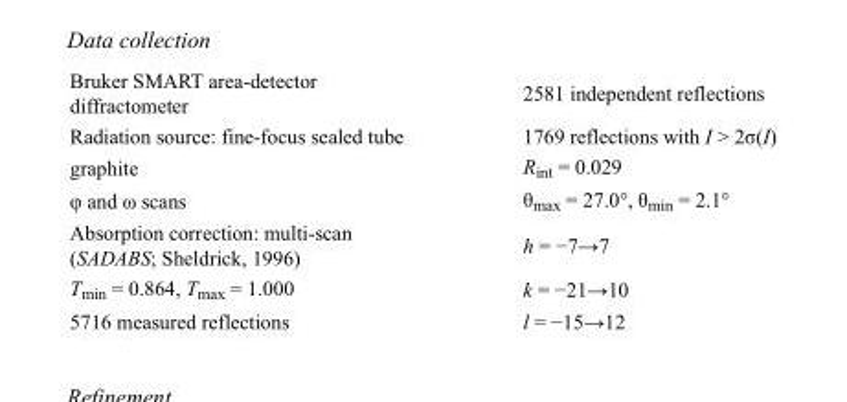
<table><tbody><tr><td>Bruker SMART area-detector diffractometer</td><td>2581 independent reflections</td></tr><tr><td>Radiation source: fine-focus sealed tube</td><td>1769 reflections with I &gt; 2σ(I)</td></tr><tr><td>graphite</td><td>R<sub>int</sub> = 0.029</td></tr><tr><td>φ and ω scans</td><td>θ<sub>max</sub> = 27.0°, θ<sub>min</sub> = 2.1°</td></tr><tr><td>Absorption correction: multi-scan (SADABS; Sheldrick, 1996)</td><td>h = −7→7</td></tr><tr><td>T<sub>min</sub> = 0.864, T<sub>max</sub> = 1.000</td><td>k = −21→10</td></tr><tr><td>5716 measured reflections</td><td>l = −15→12</td></tr></tbody></table>